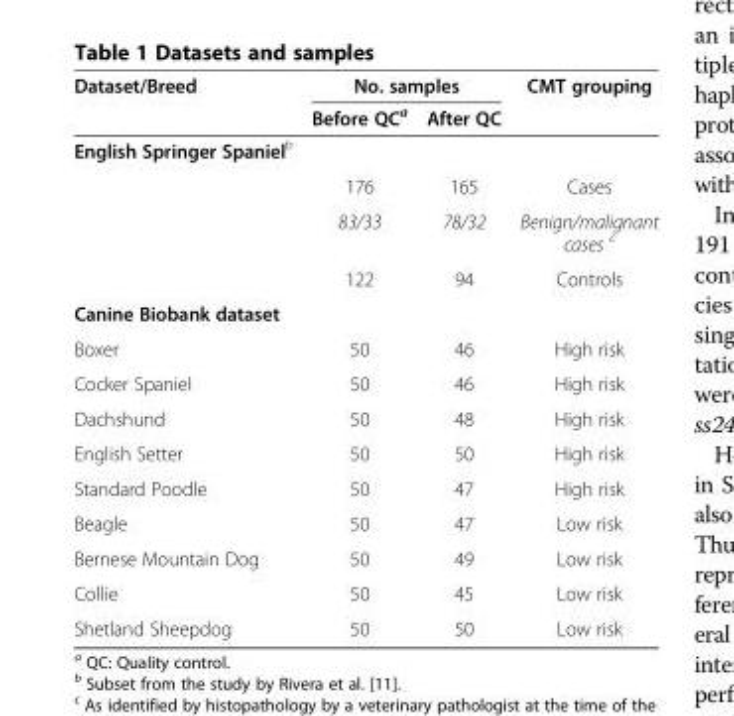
<table><thead><tr><td rowspan="2">Dataset/Breed</td><td colspan="2">No. samples</td><td rowspan="2">CMT grouping</td></tr><tr><td>Before QC<sup>a</sup></td><td>After QC</td></tr></thead><tbody><tr><td colspan="4">English Springer Spaniel<sup>b</sup></td></tr><tr><td></td><td>176</td><td>165</td><td>Cases</td></tr><tr><td></td><td>83/33</td><td>78/32</td><td>Benign/malignant cases <sup>c</sup></td></tr><tr><td></td><td>122</td><td>94</td><td>Controls</td></tr><tr><td colspan="4">Canine Biobank dataset</td></tr><tr><td>Boxer</td><td>50</td><td>46</td><td>High risk</td></tr><tr><td>Cocker Spaniel</td><td>50</td><td>46</td><td>High risk</td></tr><tr><td>Dachshund</td><td>50</td><td>48</td><td>High risk</td></tr><tr><td>English Setter</td><td>50</td><td>50</td><td>High risk</td></tr><tr><td>Standard Poodle</td><td>50</td><td>47</td><td>High risk</td></tr><tr><td>Beagle</td><td>50</td><td>47</td><td>Low risk</td></tr><tr><td>Bernese Mountain Dog</td><td>50</td><td>49</td><td>Low risk</td></tr><tr><td>Collie</td><td>50</td><td>45</td><td>Low risk</td></tr><tr><td>Shetland Sheepdog</td><td>50</td><td>50</td><td>Low risk</td></tr></tbody></table>